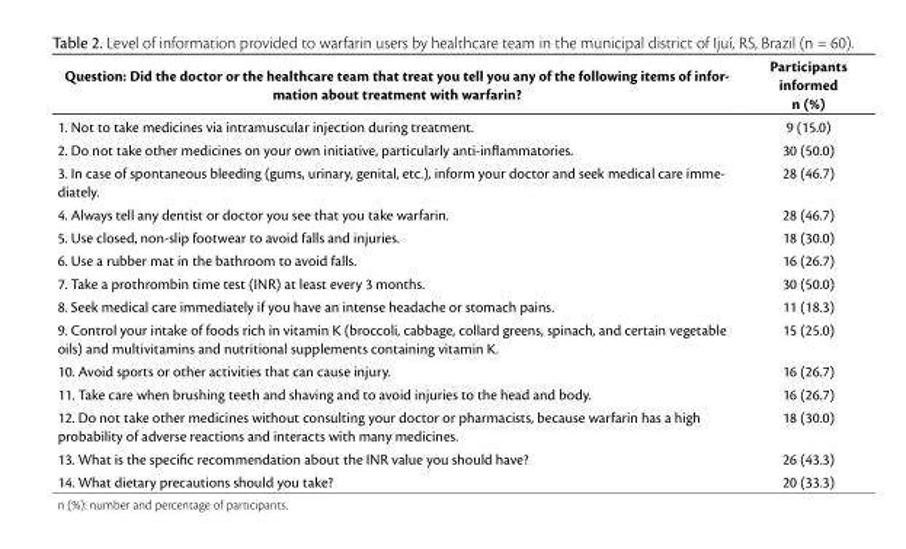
<table><thead><tr><td>Question: Did the doctor or the healthcare team that treat you tell you any of the following items of infor- mation about treatment with warfarin?</td><td>Participants informed n (%)</td></tr></thead><tbody><tr><td>1. Not to take medicines via intramuscular injection during treatment.</td><td>9 (15.0)</td></tr><tr><td>2. Do not take other medicines on your own initiative, particularly anti-inflammatories.</td><td>30 (50.0)</td></tr><tr><td>3. In case of spontaneous bleeding (gums, urinary, genital, etc.), inform your doctor and seek medical care imme- diately.</td><td>28 (46.7)</td></tr><tr><td>4. Always tell any dentist or doctor you see that you take warfarin.</td><td>28 (46.7)</td></tr><tr><td>5. Use closed, non-slip footwear to avoid falls and injuries.</td><td>18 (30.0)</td></tr><tr><td>6. Use a rubber mat in the bathroom to avoid falls.</td><td>16 (26.7)</td></tr><tr><td>7. Take a prothrombin time test (INR) at least every 3 months.</td><td>30 (50.0)</td></tr><tr><td>8. Seek medical care immediately if you have an intense headache or stomach pains.</td><td>11 (18.3)</td></tr><tr><td>9. Control your intake of foods rich in vitamin K (broccoli, cabbage, collard greens, spinach, and certain vegetable oils) and multivitamins and nutritional supplements containing vitamin K.</td><td>15 (25.0)</td></tr><tr><td>10. Avoid sports or other activities that can cause injury.</td><td>16 (26.7)</td></tr><tr><td>11. Take care when brushing teeth and shaving and to avoid injuries to the head and body.</td><td>16 (26.7)</td></tr><tr><td>12. Do not take other medicines without consulting your doctor or pharmacists, because warfarin has a high probability of adverse reactions and interacts with many medicines.</td><td>18 (30.0)</td></tr><tr><td>13. What is the specific recommendation about the INR value you should have?</td><td>26 (43.3)</td></tr><tr><td>14. What dietary precautions should you take?</td><td>20 (33.3)</td></tr></tbody></table>